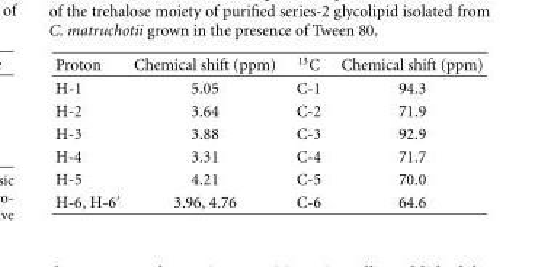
<table><thead><tr><td>Proton</td><td>Chemical shift (ppm)</td><td><sup>13</sup>C</td><td>Chemical shift (ppm)</td></tr></thead><tbody><tr><td>H-1</td><td>5.05</td><td>C-1</td><td>94.3</td></tr><tr><td>H-2</td><td>3.64</td><td>C-2</td><td>71.9</td></tr><tr><td>H-3</td><td>3.88</td><td>C-3</td><td>92.9</td></tr><tr><td>H-4</td><td>3.31</td><td>C-4</td><td>71.7</td></tr><tr><td>H-5</td><td>4.21</td><td>C-5</td><td>70.0</td></tr><tr><td>H-6, H-6′</td><td>3.96, 4.76</td><td>C-6</td><td>64.6</td></tr></tbody></table>